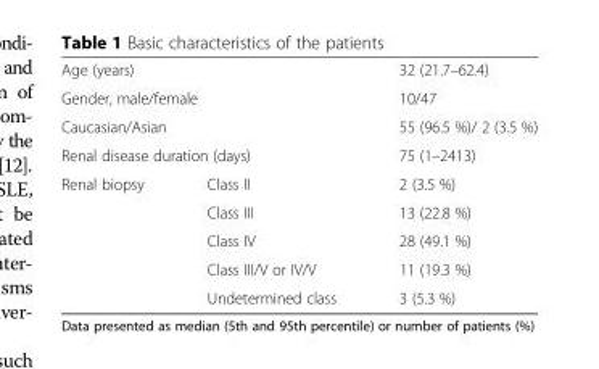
<table><tbody><tr><td colspan="2">Age (years)</td><td>32 (21.7–62.4)</td></tr><tr><td colspan="2">Gender, male/female</td><td>10/47</td></tr><tr><td colspan="2">Caucasian/Asian</td><td>55 (96.5 %)/ 2 (3.5 %)</td></tr><tr><td colspan="2">Renal disease duration (days)</td><td>75 (1–2413)</td></tr><tr><td rowspan="5">Renal biopsy</td><td>Class II</td><td>2 (3.5 %)</td></tr><tr><td>Class III</td><td>13 (22.8 %)</td></tr><tr><td>Class IV</td><td>28 (49.1 %)</td></tr><tr><td>Class III/V or IV/V</td><td>11 (19.3 %)</td></tr><tr><td>Undetermined class</td><td>3 (5.3 %)</td></tr></tbody></table>